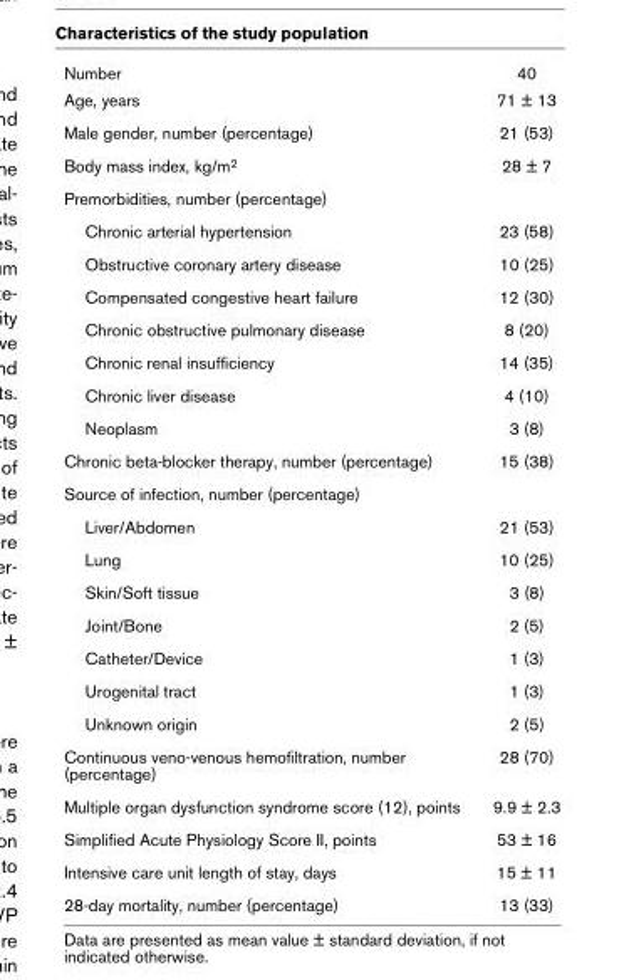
<table><tbody><tr><td>Number</td><td>40</td></tr><tr><td>Age, years</td><td>71 ± 13</td></tr><tr><td>Male gender, number (percentage)</td><td>21 (53)</td></tr><tr><td>Body mass index, kg/m<sup>2</sup></td><td>28 ± 7</td></tr><tr><td colspan="2">Premorbidities, number (percentage)</td></tr><tr><td>Chronic arterial hypertension</td><td>23 (58)</td></tr><tr><td>Obstructive coronary artery disease</td><td>10 (25)</td></tr><tr><td>Compensated congestive heart failure</td><td>12 (30)</td></tr><tr><td>Chronic obstructive pulmonary disease</td><td>8 (20)</td></tr><tr><td>Chronic renal insufficiency</td><td>14 (35)</td></tr><tr><td>Chronic liver disease</td><td>4 (10)</td></tr><tr><td>Neoplasm</td><td>3 (8)</td></tr><tr><td>Chronic beta-blocker therapy, number (percentage)</td><td>15 (38)</td></tr><tr><td colspan="2">Source of infection, number (percentage)</td></tr><tr><td>Liver/Abdomen</td><td>21 (53)</td></tr><tr><td>Lung</td><td>10 (25)</td></tr><tr><td>Skin/Soft tissue</td><td>3 (8)</td></tr><tr><td>Joint/Bone</td><td>2 (5)</td></tr><tr><td>Catheter/Device</td><td>1 (3)</td></tr><tr><td>Urogenital tract</td><td>1 (3)</td></tr><tr><td>Unknown origin</td><td>2 (5)</td></tr><tr><td>Continuous veno-venous hemofiltration, number (percentage)</td><td>28 (70)</td></tr><tr><td>Multiple organ dysfunction syndrome score (12), points</td><td>9.9 ± 2.3</td></tr><tr><td>Simplified Acute Physiology Score II, points</td><td>53 ± 16</td></tr><tr><td>Intensive care unit length of stay, days</td><td>15 ± 11</td></tr><tr><td>28-day mortality, number (percentage)</td><td>13 (33)</td></tr></tbody></table>